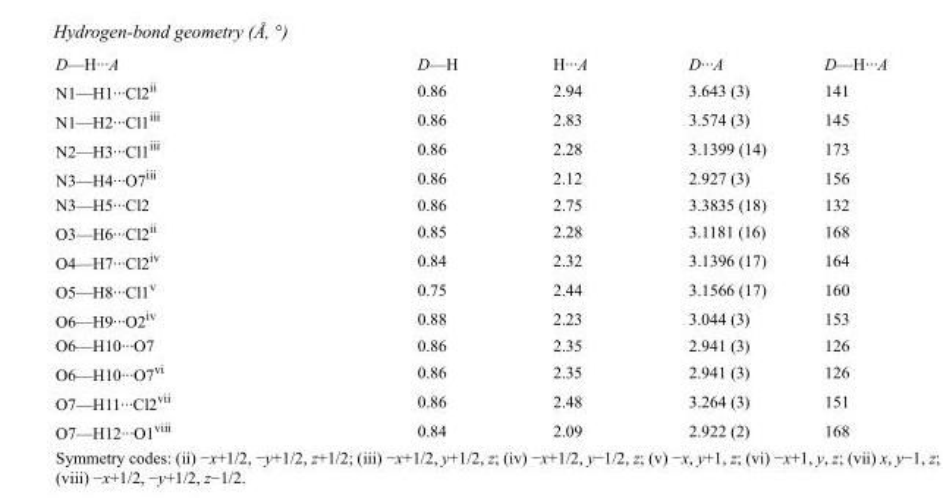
<table><tbody><tr><td>D—H···A</td><td>D—H</td><td>H···A</td><td>D···A</td><td>D—H···A</td></tr><tr><td>N1—H1···Cl2<sup>ii</sup></td><td>0.86</td><td>2.94</td><td>3.643 (3)</td><td>141</td></tr><tr><td>N1—H2···Cl1<sup>iii</sup></td><td>0.86</td><td>2.83</td><td>3.574 (3)</td><td>145</td></tr><tr><td>N2—H3···Cl1<sup>iii</sup></td><td>0.86</td><td>2.28</td><td>3.1399 (14)</td><td>173</td></tr><tr><td>N3—H4···O7<sup>iii</sup></td><td>0.86</td><td>2.12</td><td>2.927 (3)</td><td>156</td></tr><tr><td>N3—H5···Cl2</td><td>0.86</td><td>2.75</td><td>3.3835 (18)</td><td>132</td></tr><tr><td>O3—H6···Cl2<sup>ii</sup></td><td>0.85</td><td>2.28</td><td>3.1181 (16)</td><td>168</td></tr><tr><td>O4—H7···Cl2<sup>iv</sup></td><td>0.84</td><td>2.32</td><td>3.1396 (17)</td><td>164</td></tr><tr><td>O5—H8···Cl1<sup>v</sup></td><td>0.75</td><td>2.44</td><td>3.1566 (17)</td><td>160</td></tr><tr><td>O6—H9···O2<sup>iv</sup></td><td>0.88</td><td>2.23</td><td>3.044 (3)</td><td>153</td></tr><tr><td>O6—H10···O7</td><td>0.86</td><td>2.35</td><td>2.941 (3)</td><td>126</td></tr><tr><td>O6—H10···O7<sup>vi</sup></td><td>0.86</td><td>2.35</td><td>2.941 (3)</td><td>126</td></tr><tr><td>O7—H11···Cl2<sup>vii</sup></td><td>0.86</td><td>2.48</td><td>3.264 (3)</td><td>151</td></tr><tr><td>O7—H12···O1<sup>viii</sup></td><td>0.84</td><td>2.09</td><td>2.922 (2)</td><td>168</td></tr></tbody></table>